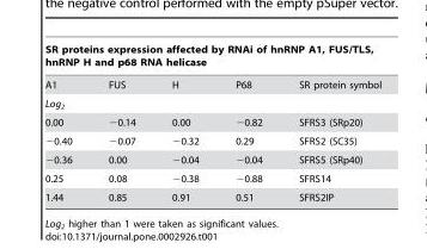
<table><thead><tr><td colspan="5">SR proteins expression affected by RNAi of hnRNP A1, FUS/TLS, hnRNP H and p68 RNA helicase</td></tr><tr><td>A1</td><td>FUS</td><td>H</td><td>P68</td><td>SR protein symbol</td></tr></thead><tbody><tr><td colspan="5">Log<sub>2</sub></td></tr><tr><td>0.00</td><td>−0.14</td><td>0.00</td><td>−0.82</td><td>SFRS3 (SRp20)</td></tr><tr><td>−0.40</td><td>−0.07</td><td>−0.32</td><td>0.29</td><td>SFRS2 (SC35)</td></tr><tr><td>−0.36</td><td>0.00</td><td>−0.04</td><td>−0.04</td><td>SFRS5 (SRp40)</td></tr><tr><td>0.25</td><td>0.08</td><td>−0.38</td><td>−0.88</td><td>SFRS14</td></tr><tr><td>1.44</td><td>0.85</td><td>0.91</td><td>0.51</td><td>SFRS2IP</td></tr></tbody></table>